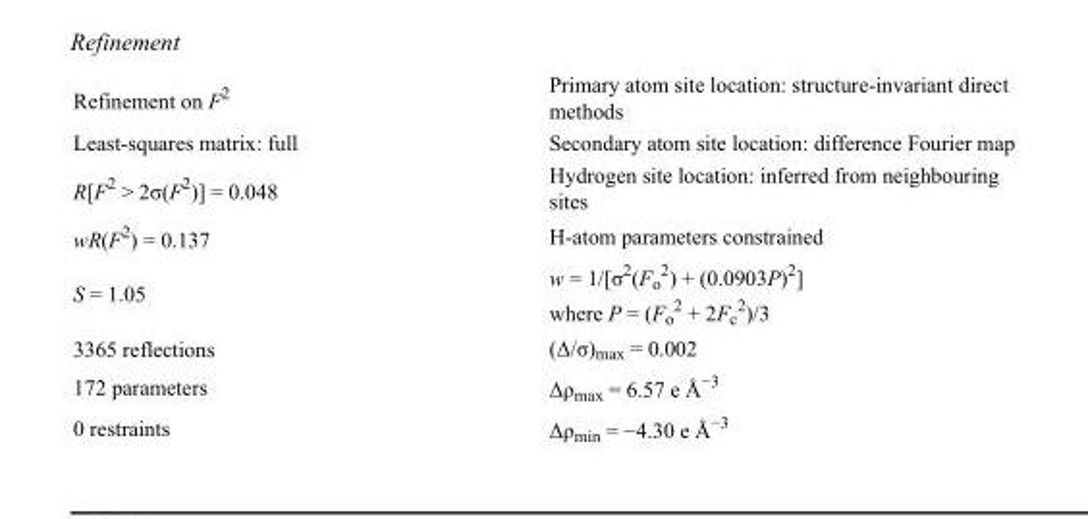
<table><tbody><tr><td>Refinement on F<sup>2</sup></td><td>Primary atom site location: structure-invariant direct methods</td></tr><tr><td>Least-squares matrix: full</td><td>Secondary atom site location: difference Fourier map</td></tr><tr><td>R[F<sup>2</sup> &gt; 2σ(F<sup>2</sup>)] = 0.048</td><td>Hydrogen site location: inferred from neighbouring sites</td></tr><tr><td>wR(F<sup>2</sup>) = 0.137</td><td>H-atom parameters constrained</td></tr><tr><td>S = 1.05</td><td>w = 1/[σ<sup>2</sup>(F<sub>o</sub> <sup>2</sup>) + (0.0903P)<sup>2</sup>] where P = (F<sub>o</sub> <sup>2</sup> + 2F<sub>c</sub> <sup>2</sup>)/3</td></tr><tr><td>3365 reflections</td><td>(Δ/σ)<sub>max</sub> = 0.002</td></tr><tr><td>172 parameters</td><td>Δρ<sub>max</sub> = 6.57 e Å<sup>−3</sup></td></tr><tr><td>0 restraints</td><td>Δρ<sub>min</sub> = −4.30 e Å<sup>−3</sup></td></tr></tbody></table>